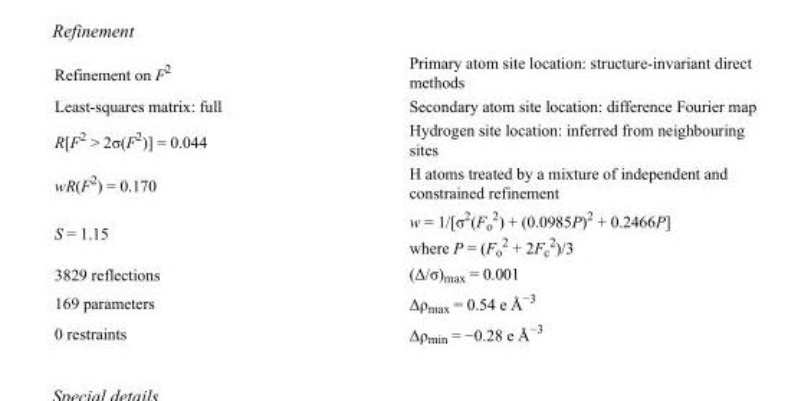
<table><tbody><tr><td>Refinement on F<sup>2</sup></td><td>Primary atom site location: structure-invariant direct methods</td></tr><tr><td>Least-squares matrix: full</td><td>Secondary atom site location: difference Fourier map</td></tr><tr><td>R[F<sup>2</sup> &gt; 2σ(F<sup>2</sup>)] = 0.044</td><td>Hydrogen site location: inferred from neighbouring sites</td></tr><tr><td>wR(F<sup>2</sup>) = 0.170</td><td>H atoms treated by a mixture of independent and constrained refinement</td></tr><tr><td>S = 1.15</td><td>w = 1/[σ<sup>2</sup>(F<sub>o</sub> <sup>2</sup>) + (0.0985P)<sup>2</sup> + 0.2466P] where P = (F<sub>o</sub> <sup>2</sup> + 2F<sub>c</sub> <sup>2</sup>)/3</td></tr><tr><td>3829 reflections</td><td>(Δ/σ)<sub>max</sub> = 0.001</td></tr><tr><td>169 parameters</td><td>Δρ<sub>max</sub> = 0.54 e Å<sup>−3</sup></td></tr><tr><td>0 restraints</td><td>Δρ<sub>min</sub> = −0.28 e Å<sup>−3</sup></td></tr></tbody></table>